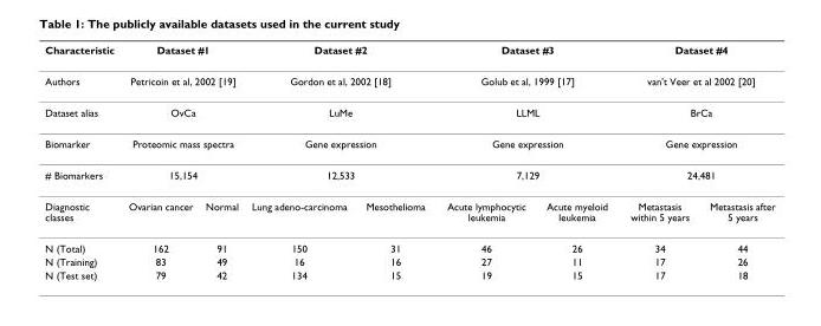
<table><thead><tr><td>Characteristic</td><td colspan="2">Dataset #1</td><td colspan="2">Dataset #2</td><td colspan="2">Dataset #3</td><td colspan="2">Dataset #4</td></tr></thead><tbody><tr><td>Authors</td><td colspan="2">Petricoin et al, 2002 [19]</td><td colspan="2">Gordon et al, 2002 [18]</td><td colspan="2">Golub et al, 1999 [17]</td><td colspan="2">van&#x27;t Veer et al 2002 [20]</td></tr><tr><td>Dataset alias</td><td colspan="2">OvCa</td><td colspan="2">LuMe</td><td colspan="2">LLML</td><td colspan="2">BrCa</td></tr><tr><td>Biomarker</td><td colspan="2">Proteomic mass spectra</td><td colspan="2">Gene expression</td><td colspan="2">Gene expression</td><td colspan="2">Gene expression</td></tr><tr><td># Biomarkers</td><td colspan="2">15,154</td><td colspan="2">12,533</td><td colspan="2">7,129</td><td colspan="2">24,481</td></tr><tr><td>Diagnostic classes</td><td>Ovarian cancer</td><td>Normal</td><td>Lung adeno-carcinoma</td><td>Mesothelioma</td><td>Acute lymphocytic leukemia</td><td>Acute myeloid leukemia</td><td>Metastasis within 5 years</td><td>Metastasis after 5 years</td></tr><tr><td>N (Total)</td><td>162</td><td>91</td><td>150</td><td>31</td><td>46</td><td>26</td><td>34</td><td>44</td></tr><tr><td>N (Training)</td><td>83</td><td>49</td><td>16</td><td>16</td><td>27</td><td>11</td><td>17</td><td>26</td></tr><tr><td>N (Test set)</td><td>79</td><td>42</td><td>134</td><td>15</td><td>19</td><td>15</td><td>17</td><td>18</td></tr></tbody></table>